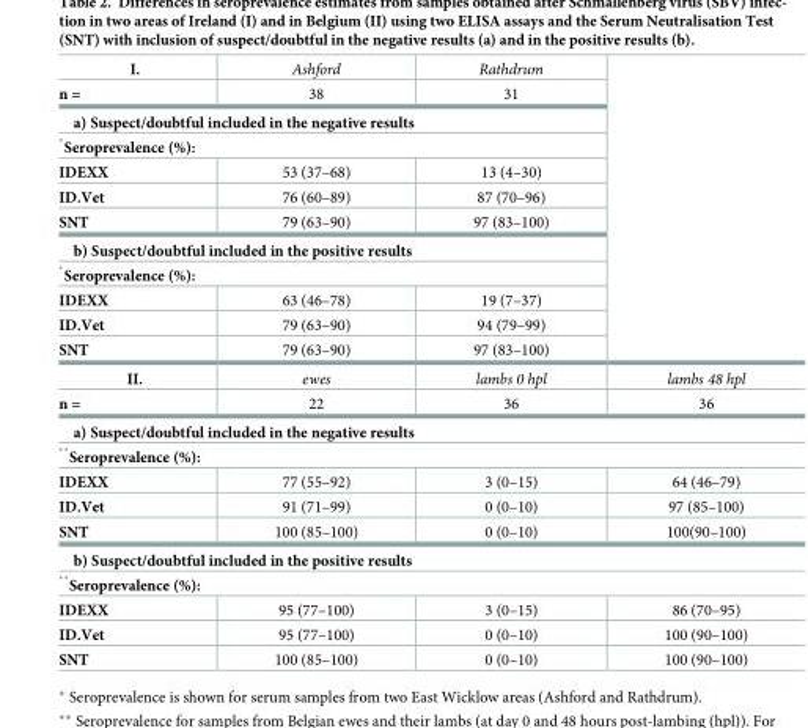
<table><tbody><tr><td>I.</td><td>Ashford</td><td>Rathdrum</td><td rowspan="12"></td></tr><tr><td>n =</td><td>38</td><td>31</td></tr><tr><td colspan="3">a) Suspect/doubtful included in the negative results</td></tr><tr><td colspan="3">*Seroprevalence (%):</td></tr><tr><td>IDEXX</td><td>53 (37–68)</td><td>13 (4–30)</td></tr><tr><td>ID.Vet</td><td>76 (60–89)</td><td>87 (70–96)</td></tr><tr><td>SNT</td><td>79 (63–90)</td><td>97 (83–100)</td></tr><tr><td colspan="3">b) Suspect/doubtful included in the positive results</td></tr><tr><td colspan="3">*Seroprevalence (%):</td></tr><tr><td>IDEXX</td><td>63 (46–78)</td><td>19 (7–37)</td></tr><tr><td>ID.Vet</td><td>79 (63–90)</td><td>94 (79–99)</td></tr><tr><td>SNT</td><td>79 (63–90)</td><td>97 (83–100)</td></tr><tr><td>II.</td><td>ewes</td><td>lambs 0 hpl</td><td>lambs 48 hpl</td></tr><tr><td>n =</td><td>22</td><td>36</td><td>36</td></tr><tr><td colspan="4">a) Suspect/doubtful included in the negative results</td></tr><tr><td colspan="4">**Seroprevalence (%):</td></tr><tr><td>IDEXX</td><td>77 (55–92)</td><td>3 (0–15)</td><td>64 (46–79)</td></tr><tr><td>ID.Vet</td><td>91 (71–99)</td><td>0 (0–10)</td><td>97 (85–100)</td></tr><tr><td>SNT</td><td>100 (85–100)</td><td>0 (0–10)</td><td>100(90–100)</td></tr><tr><td colspan="4">b) Suspect/doubtful included in the positive results</td></tr><tr><td colspan="4">**Seroprevalence (%):</td></tr><tr><td>IDEXX</td><td>95 (77–100)</td><td>3 (0–15)</td><td>86 (70–95)</td></tr><tr><td>ID.Vet</td><td>95 (77–100)</td><td>0 (0–10)</td><td>100 (90–100)</td></tr><tr><td>SNT</td><td>100 (85–100)</td><td>0 (0–10)</td><td>100 (90–100)</td></tr></tbody></table>